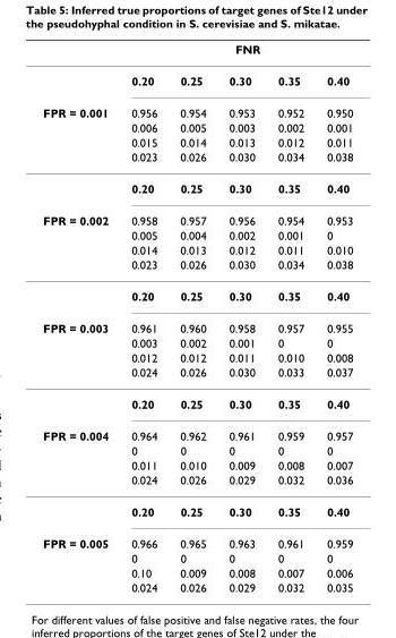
<table><thead><tr><td rowspan="2"></td><td colspan="5">FNR</td></tr><tr><td>0.20</td><td>0.25</td><td>0.30</td><td>0.35</td><td>0.40</td></tr></thead><tbody><tr><td rowspan="5">FPR = 0.001</td><td>0.956</td><td>0.954</td><td>0.953</td><td>0.952</td><td>0.950</td></tr><tr><td>0.006</td><td>0.005</td><td>0.003</td><td>0.002</td><td>0.001</td></tr><tr><td>0.015</td><td>0.014</td><td>0.013</td><td>0.012</td><td>0.011</td></tr><tr><td>0.023</td><td>0.026</td><td>0.030</td><td>0.034</td><td>0.038</td></tr><tr><td>0.20</td><td>0.25</td><td>0.30</td><td>0.35</td><td>0.40</td></tr><tr><td rowspan="5">FPR = 0.002</td><td>0.958</td><td>0.957</td><td>0.956</td><td>0.954</td><td>0.953</td></tr><tr><td>0.005</td><td>0.004</td><td>0.002</td><td>0.001</td><td>0</td></tr><tr><td>0.014</td><td>0.013</td><td>0.012</td><td>0.011</td><td>0.010</td></tr><tr><td>0.023</td><td>0.026</td><td>0.030</td><td>0.034</td><td>0.038</td></tr><tr><td>0.20</td><td>0.25</td><td>0.30</td><td>0.35</td><td>0.40</td></tr><tr><td rowspan="5">FPR = 0.003</td><td>0.961</td><td>0.960</td><td>0.958</td><td>0.957</td><td>0.955</td></tr><tr><td>0.003</td><td>0.002</td><td>0.001</td><td>0</td><td>0</td></tr><tr><td>0.012</td><td>0.012</td><td>0.011</td><td>0.010</td><td>0.008</td></tr><tr><td>0.024</td><td>0.026</td><td>0.030</td><td>0.033</td><td>0.037</td></tr><tr><td>0.20</td><td>0.25</td><td>0.30</td><td>0.35</td><td>0.40</td></tr><tr><td rowspan="5">FPR = 0.004</td><td>0.964</td><td>0.962</td><td>0.961</td><td>0.959</td><td>0.957</td></tr><tr><td>0</td><td>0</td><td>0</td><td>0</td><td>0</td></tr><tr><td>0.011</td><td>0.010</td><td>0.009</td><td>0.008</td><td>0.007</td></tr><tr><td>0.024</td><td>0.026</td><td>0.029</td><td>0.032</td><td>0.036</td></tr><tr><td>0.20</td><td>0.25</td><td>0.30</td><td>0.35</td><td>0.40</td></tr><tr><td rowspan="4">FPR = 0.005</td><td>0.966</td><td>0.965</td><td>0.963</td><td>0.961</td><td>0.959</td></tr><tr><td>0</td><td>0</td><td>0</td><td>0</td><td>0</td></tr><tr><td>0.10</td><td>0.009</td><td>0.008</td><td>0.007</td><td>0.006</td></tr><tr><td>0.024</td><td>0.026</td><td>0.029</td><td>0.032</td><td>0.035</td></tr></tbody></table>